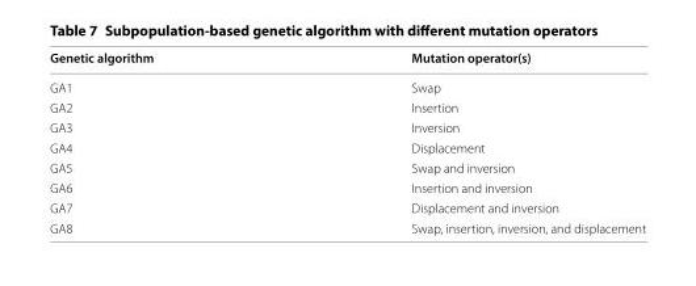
<table><thead><tr><td>Genetic algorithm</td><td>Mutation operator(s)</td></tr></thead><tbody><tr><td>GA1</td><td>Swap</td></tr><tr><td>GA2</td><td>Insertion</td></tr><tr><td>GA3</td><td>Inversion</td></tr><tr><td>GA4</td><td>Displacement</td></tr><tr><td>GA5</td><td>Swap and inversion</td></tr><tr><td>GA6</td><td>Insertion and inversion</td></tr><tr><td>GA7</td><td>Displacement and inversion</td></tr><tr><td>GA8</td><td>Swap, insertion, inversion, and displacement</td></tr></tbody></table>